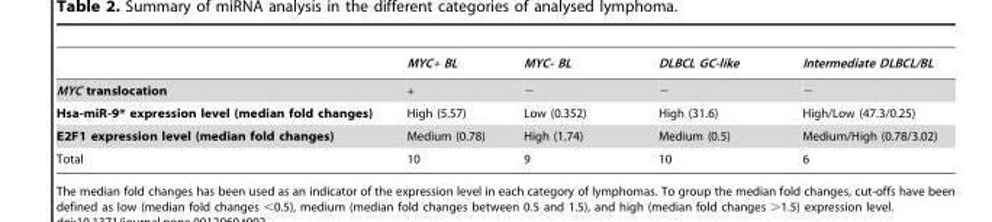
<table><thead><tr><td></td><td>MYC+ BL</td><td>MYC- BL</td><td>DLBCL GC-like</td><td>Intermediate DLBCL/BL</td></tr></thead><tbody><tr><td>MYC translocation</td><td>+</td><td>−</td><td>−</td><td>−</td></tr><tr><td>Hsa-miR-9* expression level (median fold changes)</td><td>High (5.57)</td><td>Low (0.352)</td><td>High (31.6)</td><td>High/Low (47.3/0.25)</td></tr><tr><td>E2F1 expression level (median fold changes)</td><td>Medium (0.78)</td><td>High (1.74)</td><td>Medium (0.5)</td><td>Medium/High (0.78/3.02)</td></tr><tr><td>Total</td><td>10</td><td>9</td><td>10</td><td>6</td></tr></tbody></table>